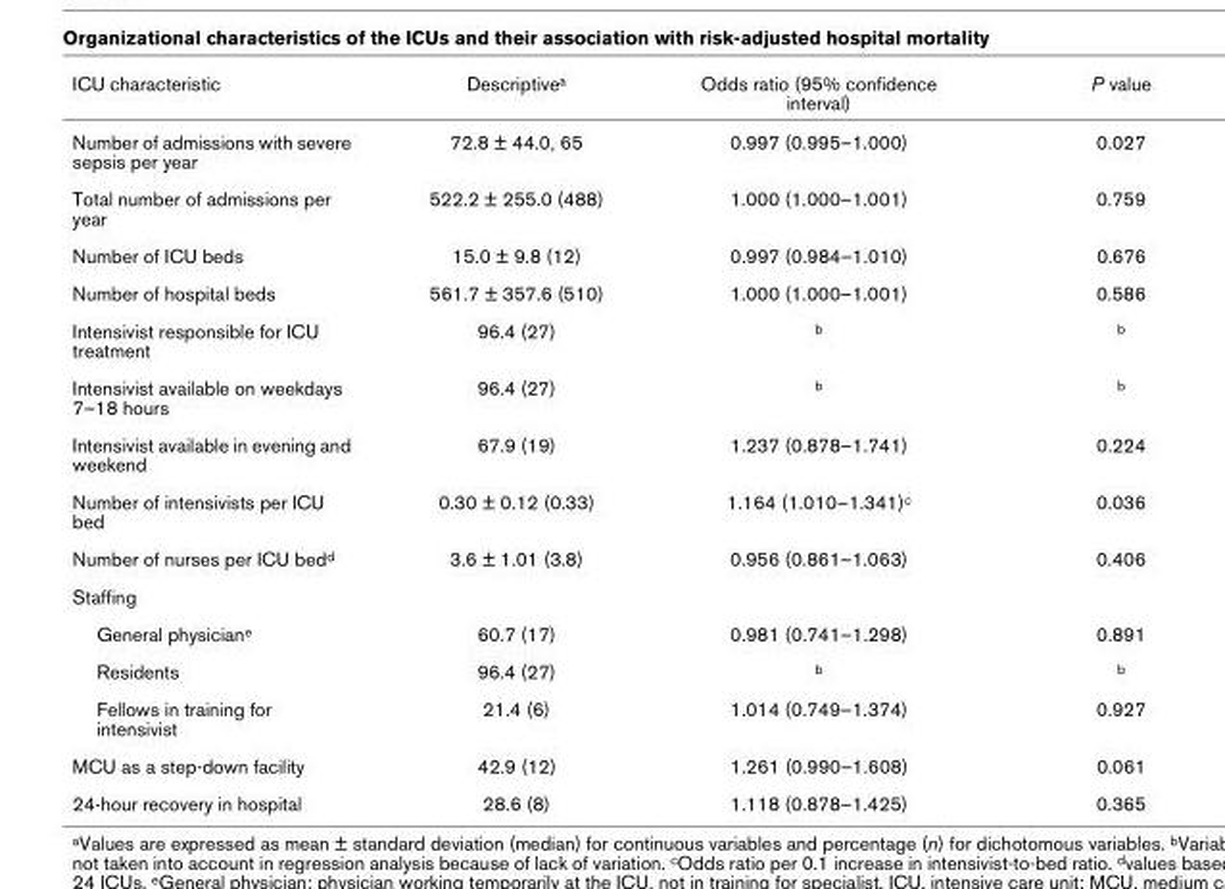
<table><thead><tr><td>ICU characteristic</td><td>Descriptive<sup>a</sup></td><td>Odds ratio (95% confidence interval)</td><td>P value</td></tr></thead><tbody><tr><td>Number of admissions with severe sepsis per year</td><td>72.8 ± 44.0, 65</td><td>0.997 (0.995–1.000)</td><td>0.027</td></tr><tr><td>Total number of admissions per year</td><td>522.2 ± 255.0 (488)</td><td>1.000 (1.000–1.001)</td><td>0.759</td></tr><tr><td>Number of ICU beds</td><td>15.0 ± 9.8 (12)</td><td>0.997 (0.984–1.010)</td><td>0.676</td></tr><tr><td>Number of hospital beds</td><td>561.7 ± 357.6 (510)</td><td>1.000 (1.000–1.001)</td><td>0.586</td></tr><tr><td>Intensivist responsible for ICU treatment</td><td>96.4 (27)</td><td><sup>b</sup></td><td><sup>b</sup></td></tr><tr><td>Intensivist available on weekdays 7–18 hours</td><td>96.4 (27)</td><td><sup>b</sup></td><td><sup>b</sup></td></tr><tr><td>Intensivist available in evening and weekend</td><td>67.9 (19)</td><td>1.237 (0.878–1.741)</td><td>0.224</td></tr><tr><td>Number of intensivists per ICU bed</td><td>0.30 ± 0.12 (0.33)</td><td>1.164 (1.010–1.341)<sup>c</sup></td><td>0.036</td></tr><tr><td>Number of nurses per ICU bed<sup>d</sup></td><td>3.6 ± 1.01 (3.8)</td><td>0.956 (0.861–1.063)</td><td>0.406</td></tr><tr><td colspan="4">Staffing</td></tr><tr><td>General physician<sup>e</sup></td><td>60.7 (17)</td><td>0.981 (0.741–1.298)</td><td>0.891</td></tr><tr><td>Residents</td><td>96.4 (27)</td><td><sup>b</sup></td><td><sup>b</sup></td></tr><tr><td>Fellows in training for intensivist</td><td>21.4 (6)</td><td>1.014 (0.749–1.374)</td><td>0.927</td></tr><tr><td>MCU as a step-down facility</td><td>42.9 (12)</td><td>1.261 (0.990–1.608)</td><td>0.061</td></tr><tr><td>24-hour recovery in hospital</td><td>28.6 (8)</td><td>1.118 (0.878–1.425)</td><td>0.365</td></tr></tbody></table>